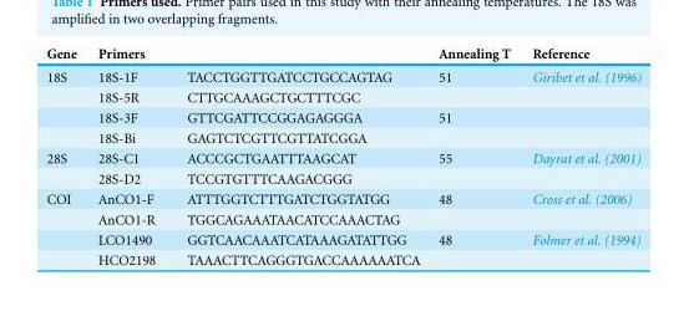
<table><thead><tr><td>Gene</td><td>Primers</td><td></td><td>Annealing T</td><td>Reference</td></tr></thead><tbody><tr><td rowspan="4">18S</td><td>18S-1F</td><td>TACCTGGTTGATCCTGCCAGTAG</td><td>51</td><td>Giribet et al. (1996)</td></tr><tr><td>18S-5R</td><td>CTTGCAAAGCTGCTTTCGC</td><td></td><td></td></tr><tr><td>18S-3F</td><td>GTTCGATTCCGGAGAGGGA</td><td>51</td><td></td></tr><tr><td>18S-Bi</td><td>GAGTCTCGTTCGTTATCGGA</td><td></td><td></td></tr><tr><td rowspan="2">28S</td><td>28S-C1</td><td>ACCCGCTGAATTTAAGCAT</td><td>55</td><td>Dayrat et al. (2001)</td></tr><tr><td>28S-D2</td><td>TCCGTGTTTCAAGACGGG</td><td></td><td></td></tr><tr><td rowspan="4">COI</td><td>AnCO1-F</td><td>ATTTGGTCTTTGATCTGGTATGG</td><td>48</td><td>Cross et al. (2006)</td></tr><tr><td>AnCO1-R</td><td>TGGCAGAAATAACATCCAAACTAG</td><td></td><td></td></tr><tr><td>LCO1490</td><td>GGTCAACAAATCATAAAGATATTGG</td><td>48</td><td>Folmer et al. (1994)</td></tr><tr><td>HCO2198</td><td>TAAACTTCAGGGTGACCAAAAAATCA</td><td></td><td></td></tr></tbody></table>